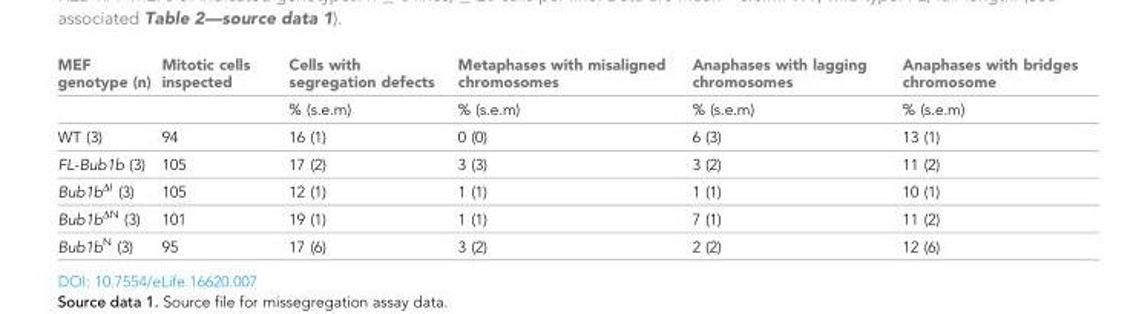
<table><thead><tr><td>MEF genotype (n)</td><td>Mitotic cells inspected</td><td>Cells with segregation defects</td><td>Metaphases with misaligned chromosomes</td><td>Anaphases with lagging chromosomes</td><td>Anaphases with bridges chromosome</td></tr></thead><tbody><tr><td></td><td></td><td>% (s.e.m)</td><td>% (s.e.m)</td><td>% (s.e.m)</td><td>% (s.e.m)</td></tr><tr><td>WT (3)</td><td>94</td><td>16 (1)</td><td>0 (0)</td><td>6 (3)</td><td>13 (1)</td></tr><tr><td>FL-Bub1b (3)</td><td>105</td><td>17 (2)</td><td>3 (3)</td><td>3 (2)</td><td>11 (2)</td></tr><tr><td>Bub1b<sup>ΔI</sup> (3)</td><td>105</td><td>12 (1)</td><td>1 (1)</td><td>1 (1)</td><td>10 (1)</td></tr><tr><td>Bub1b<sup>ΔN</sup> (3)</td><td>101</td><td>19 (1)</td><td>1 (1)</td><td>7 (1)</td><td>11 (2)</td></tr><tr><td>Bub1b<sup>N</sup> (3)</td><td>95</td><td>17 (6)</td><td>3 (2)</td><td>2 (2)</td><td>12 (6)</td></tr></tbody></table>